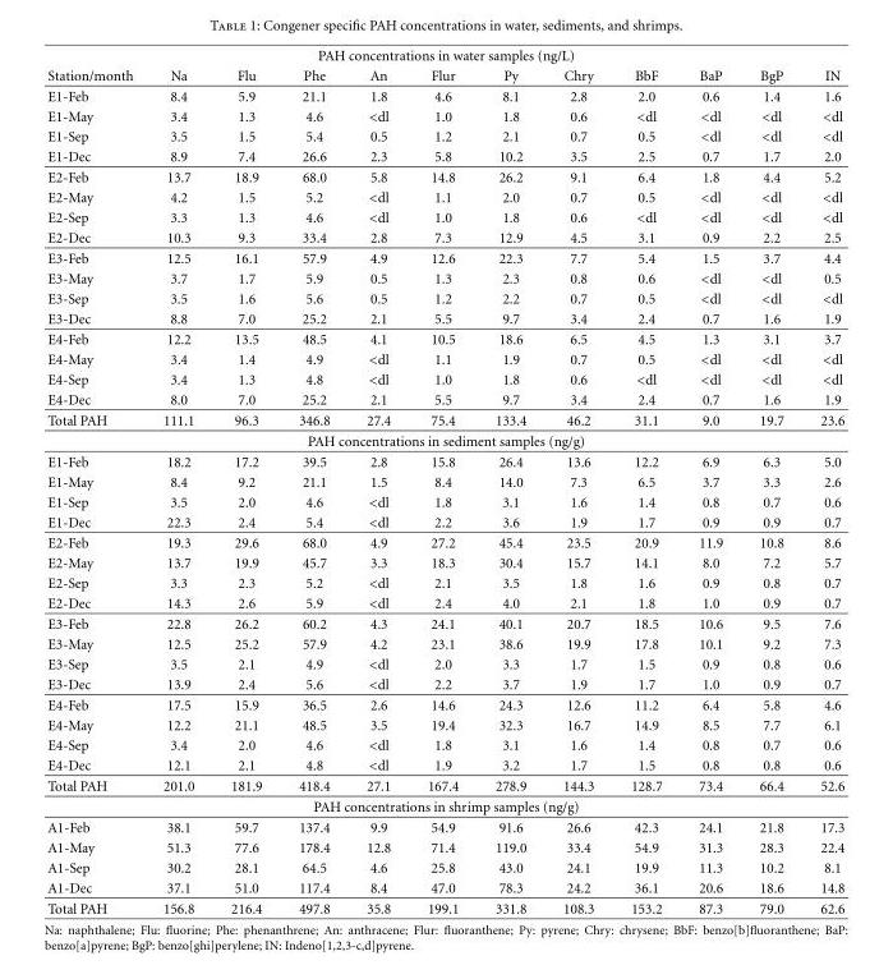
<table><thead><tr><td colspan="12">PAH concentrations in water samples (ng/L)</td></tr><tr><td>Station/month</td><td>Na</td><td>Flu</td><td>Phe</td><td>An</td><td>Flur</td><td>Py</td><td>Chry</td><td>BbF</td><td>BaP</td><td>BgP</td><td>IN</td></tr></thead><tbody><tr><td>E1-Feb</td><td>8.4</td><td>5.9</td><td>21.1</td><td>1.8</td><td>4.6</td><td>8.1</td><td>2.8</td><td>2.0</td><td>0.6</td><td>1.4</td><td>1.6</td></tr><tr><td>E1-May</td><td>3.4</td><td>1.3</td><td>4.6</td><td>&lt;dl</td><td>1.0</td><td>1.8</td><td>0.6</td><td>&lt;dl</td><td>&lt;dl</td><td>&lt;dl</td><td>&lt;dl</td></tr><tr><td>E1-Sep</td><td>3.5</td><td>1.5</td><td>5.4</td><td>0.5</td><td>1.2</td><td>2.1</td><td>0.7</td><td>0.5</td><td>&lt;dl</td><td>&lt;dl</td><td>&lt;dl</td></tr><tr><td>E1-Dec</td><td>8.9</td><td>7.4</td><td>26.6</td><td>2.3</td><td>5.8</td><td>10.2</td><td>3.5</td><td>2.5</td><td>0.7</td><td>1.7</td><td>2.0</td></tr><tr><td>E2-Feb</td><td>13.7</td><td>18.9</td><td>68.0</td><td>5.8</td><td>14.8</td><td>26.2</td><td>9.1</td><td>6.4</td><td>1.8</td><td>4.4</td><td>5.2</td></tr><tr><td>E2-May</td><td>4.2</td><td>1.5</td><td>5.2</td><td>&lt;dl</td><td>1.1</td><td>2.0</td><td>0.7</td><td>0.5</td><td>&lt;dl</td><td>&lt;dl</td><td>&lt;dl</td></tr><tr><td>E2-Sep</td><td>3.3</td><td>1.3</td><td>4.6</td><td>&lt;dl</td><td>1.0</td><td>1.8</td><td>0.6</td><td>&lt;dl</td><td>&lt;dl</td><td>&lt;dl</td><td>&lt;dl</td></tr><tr><td>E2-Dec</td><td>10.3</td><td>9.3</td><td>33.4</td><td>2.8</td><td>7.3</td><td>12.9</td><td>4.5</td><td>3.1</td><td>0.9</td><td>2.2</td><td>2.5</td></tr><tr><td>E3-Feb</td><td>12.5</td><td>16.1</td><td>57.9</td><td>4.9</td><td>12.6</td><td>22.3</td><td>7.7</td><td>5.4</td><td>1.5</td><td>3.7</td><td>4.4</td></tr><tr><td>E3-May</td><td>3.7</td><td>1.7</td><td>5.9</td><td>0.5</td><td>1.3</td><td>2.3</td><td>0.8</td><td>0.6</td><td>&lt;dl</td><td>&lt;dl</td><td>0.5</td></tr><tr><td>E3-Sep</td><td>3.5</td><td>1.6</td><td>5.6</td><td>0.5</td><td>1.2</td><td>2.2</td><td>0.7</td><td>0.5</td><td>&lt;dl</td><td>&lt;dl</td><td>&lt;dl</td></tr><tr><td>E3-Dec</td><td>8.8</td><td>7.0</td><td>25.2</td><td>2.1</td><td>5.5</td><td>9.7</td><td>3.4</td><td>2.4</td><td>0.7</td><td>1.6</td><td>1.9</td></tr><tr><td>E4-Feb</td><td>12.2</td><td>13.5</td><td>48.5</td><td>4.1</td><td>10.5</td><td>18.6</td><td>6.5</td><td>4.5</td><td>1.3</td><td>3.1</td><td>3.7</td></tr><tr><td>E4-May</td><td>3.4</td><td>1.4</td><td>4.9</td><td>&lt;dl</td><td>1.1</td><td>1.9</td><td>0.7</td><td>0.5</td><td>&lt;dl</td><td>&lt;dl</td><td>&lt;dl</td></tr><tr><td>E4-Sep</td><td>3.4</td><td>1.3</td><td>4.8</td><td>&lt;dl</td><td>1.0</td><td>1.8</td><td>0.6</td><td>&lt;dl</td><td>&lt;dl</td><td>&lt;dl</td><td>&lt;dl</td></tr><tr><td>E4-Dec</td><td>8.0</td><td>7.0</td><td>25.2</td><td>2.1</td><td>5.5</td><td>9.7</td><td>3.4</td><td>2.4</td><td>0.7</td><td>1.6</td><td>1.9</td></tr><tr><td>Total PAH</td><td>111.1</td><td>96.3</td><td>346.8</td><td>27.4</td><td>75.4</td><td>133.4</td><td>46.2</td><td>31.1</td><td>9.0</td><td>19.7</td><td>23.6</td></tr><tr><td colspan="12">PAH concentrations in sediment samples (ng/g)</td></tr><tr><td>E1-Feb</td><td>18.2</td><td>17.2</td><td>39.5</td><td>2.8</td><td>15.8</td><td>26.4</td><td>13.6</td><td>12.2</td><td>6.9</td><td>6.3</td><td>5.0</td></tr><tr><td>E1-May</td><td>8.4</td><td>9.2</td><td>21.1</td><td>1.5</td><td>8.4</td><td>14.0</td><td>7.3</td><td>6.5</td><td>3.7</td><td>3.3</td><td>2.6</td></tr><tr><td>E1-Sep</td><td>3.5</td><td>2.0</td><td>4.6</td><td>&lt;dl</td><td>1.8</td><td>3.1</td><td>1.6</td><td>1.4</td><td>0.8</td><td>0.7</td><td>0.6</td></tr><tr><td>E1-Dec</td><td>22.3</td><td>2.4</td><td>5.4</td><td>&lt;dl</td><td>2.2</td><td>3.6</td><td>1.9</td><td>1.7</td><td>0.9</td><td>0.9</td><td>0.7</td></tr><tr><td>E2-Feb</td><td>19.3</td><td>29.6</td><td>68.0</td><td>4.9</td><td>27.2</td><td>45.4</td><td>23.5</td><td>20.9</td><td>11.9</td><td>10.8</td><td>8.6</td></tr><tr><td>E2-May</td><td>13.7</td><td>19.9</td><td>45.7</td><td>3.3</td><td>18.3</td><td>30.4</td><td>15.7</td><td>14.1</td><td>8.0</td><td>7.2</td><td>5.7</td></tr><tr><td>E2-Sep</td><td>3.3</td><td>2.3</td><td>5.2</td><td>&lt;dl</td><td>2.1</td><td>3.5</td><td>1.8</td><td>1.6</td><td>0.9</td><td>0.8</td><td>0.7</td></tr><tr><td>E2-Dec</td><td>14.3</td><td>2.6</td><td>5.9</td><td>&lt;dl</td><td>2.4</td><td>4.0</td><td>2.1</td><td>1.8</td><td>1.0</td><td>0.9</td><td>0.7</td></tr><tr><td>E3-Feb</td><td>22.8</td><td>26.2</td><td>60.2</td><td>4.3</td><td>24.1</td><td>40.1</td><td>20.7</td><td>18.5</td><td>10.6</td><td>9.5</td><td>7.6</td></tr><tr><td>E3-May</td><td>12.5</td><td>25.2</td><td>57.9</td><td>4.2</td><td>23.1</td><td>38.6</td><td>19.9</td><td>17.8</td><td>10.1</td><td>9.2</td><td>7.3</td></tr><tr><td>E3-Sep</td><td>3.5</td><td>2.1</td><td>4.9</td><td>&lt;dl</td><td>2.0</td><td>3.3</td><td>1.7</td><td>1.5</td><td>0.9</td><td>0.8</td><td>0.6</td></tr><tr><td>E3-Dec</td><td>13.9</td><td>2.4</td><td>5.6</td><td>&lt;dl</td><td>2.2</td><td>3.7</td><td>1.9</td><td>1.7</td><td>1.0</td><td>0.9</td><td>0.7</td></tr><tr><td>E4-Feb</td><td>17.5</td><td>15.9</td><td>36.5</td><td>2.6</td><td>14.6</td><td>24.3</td><td>12.6</td><td>11.2</td><td>6.4</td><td>5.8</td><td>4.6</td></tr><tr><td>E4-May</td><td>12.2</td><td>21.1</td><td>48.5</td><td>3.5</td><td>19.4</td><td>32.3</td><td>16.7</td><td>14.9</td><td>8.5</td><td>7.7</td><td>6.1</td></tr><tr><td>E4-Sep</td><td>3.4</td><td>2.0</td><td>4.6</td><td>&lt;dl</td><td>1.8</td><td>3.1</td><td>1.6</td><td>1.4</td><td>0.8</td><td>0.7</td><td>0.6</td></tr><tr><td>E4-Dec</td><td>12.1</td><td>2.1</td><td>4.8</td><td>&lt;dl</td><td>1.9</td><td>3.2</td><td>1.7</td><td>1.5</td><td>0.8</td><td>0.8</td><td>0.6</td></tr><tr><td>Total PAH</td><td>201.0</td><td>181.9</td><td>418.4</td><td>27.1</td><td>167.4</td><td>278.9</td><td>144.3</td><td>128.7</td><td>73.4</td><td>66.4</td><td>52.6</td></tr><tr><td colspan="12">PAH concentrations in shrimp samples (ng/g)</td></tr><tr><td>A1-Feb</td><td>38.1</td><td>59.7</td><td>137.4</td><td>9.9</td><td>54.9</td><td>91.6</td><td>26.6</td><td>42.3</td><td>24.1</td><td>21.8</td><td>17.3</td></tr><tr><td>A1-May</td><td>51.3</td><td>77.6</td><td>178.4</td><td>12.8</td><td>71.4</td><td>119.0</td><td>33.4</td><td>54.9</td><td>31.3</td><td>28.3</td><td>22.4</td></tr><tr><td>A1-Sep</td><td>30.2</td><td>28.1</td><td>64.5</td><td>4.6</td><td>25.8</td><td>43.0</td><td>24.1</td><td>19.9</td><td>11.3</td><td>10.2</td><td>8.1</td></tr><tr><td>A1-Dec</td><td>37.1</td><td>51.0</td><td>117.4</td><td>8.4</td><td>47.0</td><td>78.3</td><td>24.2</td><td>36.1</td><td>20.6</td><td>18.6</td><td>14.8</td></tr><tr><td>Total PAH</td><td>156.8</td><td>216.4</td><td>497.8</td><td>35.8</td><td>199.1</td><td>331.8</td><td>108.3</td><td>153.2</td><td>87.3</td><td>79.0</td><td>62.6</td></tr></tbody></table>